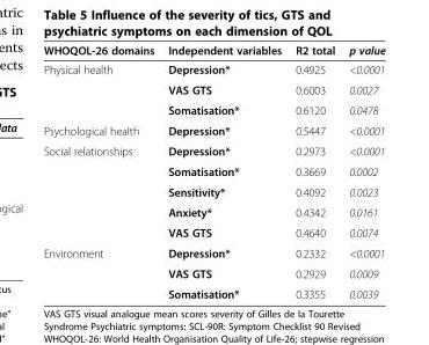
<table><thead><tr><td>WHOQOL-26 domains</td><td>Independent variables</td><td>R2 total</td><td>p value</td></tr></thead><tbody><tr><td rowspan="3">Physical health</td><td>Depression*</td><td>0.4925</td><td>&lt;0.0001</td></tr><tr><td>VAS GTS</td><td>0.6003</td><td>0.0027</td></tr><tr><td>Somatisation*</td><td>0.6120</td><td>0.0478</td></tr><tr><td>Psychological health</td><td>Depression*</td><td>0.5447</td><td>&lt;0.0001</td></tr><tr><td rowspan="5">Social relationships</td><td>Depression*</td><td>0.2973</td><td>&lt;0.0001</td></tr><tr><td>Somatisation*</td><td>0.3669</td><td>0.0002</td></tr><tr><td>Sensitivity*</td><td>0.4092</td><td>0.0023</td></tr><tr><td>Anxiety*</td><td>0.4342</td><td>0.0161</td></tr><tr><td>VAS GTS</td><td>0.4640</td><td>0.0074</td></tr><tr><td rowspan="3">Environment</td><td>Depression*</td><td>0.2332</td><td>&lt;0.0001</td></tr><tr><td>VAS GTS</td><td>0.2929</td><td>0.0009</td></tr><tr><td>Somatisation*</td><td>0.3355</td><td>0.0039</td></tr></tbody></table>